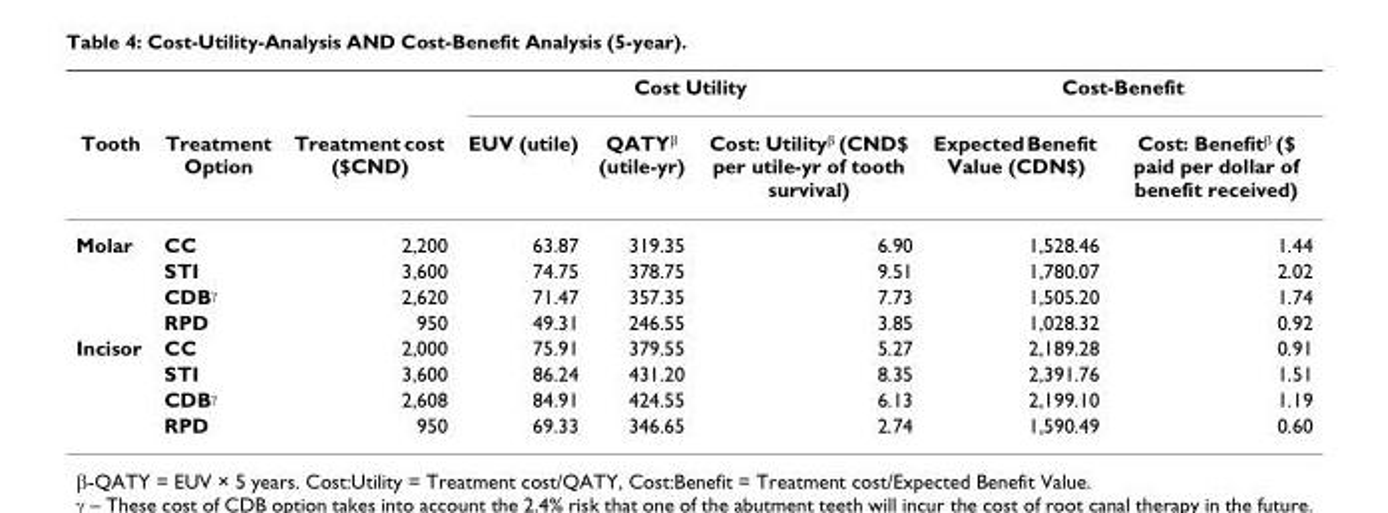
<table><thead><tr><td rowspan="2">Tooth</td><td rowspan="2">Treatment Option</td><td rowspan="2">Treatment cost ($CND)</td><td colspan="3">Cost Utility</td><td colspan="2">Cost-Benefit</td></tr><tr><td>EUV (utile)</td><td>QATY<sup>β</sup> (utile-yr)</td><td>Cost: Utility<sup>β</sup> (CND$ per utile-yr of tooth survival)</td><td>Expected Benefit Value (CDN$)</td><td>Cost: Benefit<sup>β</sup> ($ paid per dollar of benefit received)</td></tr></thead><tbody><tr><td rowspan="4">Molar</td><td>CC</td><td>2,200</td><td>63.87</td><td>319.35</td><td>6.90</td><td>1,528.46</td><td>1.44</td></tr><tr><td>STI</td><td>3,600</td><td>74.75</td><td>378.75</td><td>9.51</td><td>1,780.07</td><td>2.02</td></tr><tr><td>CDB<sup>γ</sup></td><td>2,620</td><td>71.47</td><td>357.35</td><td>7.73</td><td>1,505.20</td><td>1.74</td></tr><tr><td>RPD</td><td>950</td><td>49.31</td><td>246.55</td><td>3.85</td><td>1,028.32</td><td>0.92</td></tr><tr><td rowspan="4">Incisor</td><td>CC</td><td>2,000</td><td>75.91</td><td>379.55</td><td>5.27</td><td>2,189.28</td><td>0.91</td></tr><tr><td>STI</td><td>3,600</td><td>86.24</td><td>431.20</td><td>8.35</td><td>2,391.76</td><td>1.51</td></tr><tr><td>CDB<sup>γ</sup></td><td>2,608</td><td>84.91</td><td>424.55</td><td>6.13</td><td>2,199.10</td><td>1.19</td></tr><tr><td>RPD</td><td>950</td><td>69.33</td><td>346.65</td><td>2.74</td><td>1,590.49</td><td>0.60</td></tr></tbody></table>